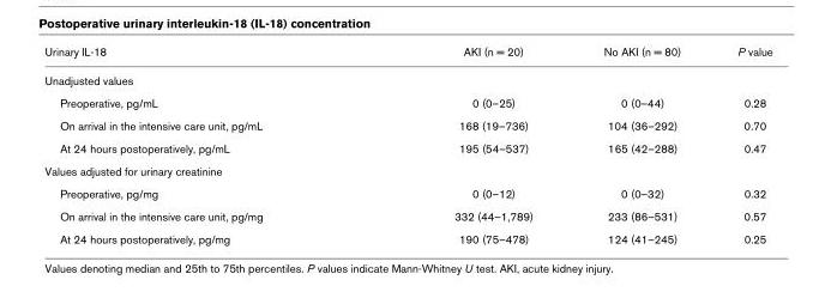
<table><thead><tr><td>Urinary IL-18</td><td>AKI (n = 20)</td><td>No AKI (n = 80)</td><td>P value</td></tr></thead><tbody><tr><td colspan="4">Unadjusted values</td></tr><tr><td>Preoperative, pg/mL</td><td>0 (0–25)</td><td>0 (0–44)</td><td>0.28</td></tr><tr><td>On arrival in the intensive care unit, pg/mL</td><td>168 (19–736)</td><td>104 (36–292)</td><td>0.70</td></tr><tr><td>At 24 hours postoperatively, pg/mL</td><td>195 (54–537)</td><td>165 (42–288)</td><td>0.47</td></tr><tr><td colspan="4">Values adjusted for urinary creatinine</td></tr><tr><td>Preoperative, pg/mg</td><td>0 (0–12)</td><td>0 (0–32)</td><td>0.32</td></tr><tr><td>On arrival in the intensive care unit, pg/mg</td><td>332 (44–1,789)</td><td>233 (86–531)</td><td>0.57</td></tr><tr><td>At 24 hours postoperatively, pg/mg</td><td>190 (75–478)</td><td>124 (41–245)</td><td>0.25</td></tr></tbody></table>